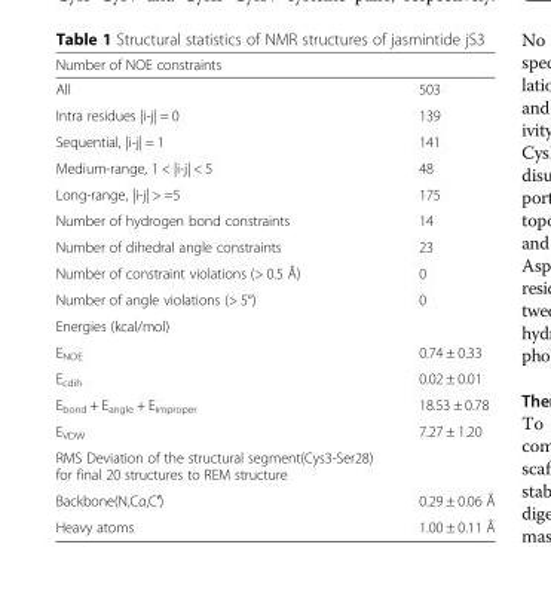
<table><thead><tr><td>Number of NOE constraints</td><td></td></tr></thead><tbody><tr><td>All</td><td>503</td></tr><tr><td>Intra residues |i-j| = 0</td><td>139</td></tr><tr><td>Sequential, |i-j| = 1</td><td>141</td></tr><tr><td>Medium-range, 1 &lt; |i-j| &lt; 5</td><td>48</td></tr><tr><td>Long-range, |i-j| &gt; =5</td><td>175</td></tr><tr><td>Number of hydrogen bond constraints</td><td>14</td></tr><tr><td>Number of dihedral angle constraints</td><td>23</td></tr><tr><td>Number of constraint violations (&gt; 0.5 Å)</td><td>0</td></tr><tr><td>Number of angle violations (&gt; 5°)</td><td>0</td></tr><tr><td colspan="2">Energies (kcal/mol)</td></tr><tr><td>E<sub>NOE</sub></td><td>0.74 ± 0.33</td></tr><tr><td>E<sub>cdih</sub></td><td>0.02 ± 0.01</td></tr><tr><td>E<sub>bond</sub> + E<sub>angle</sub> + E<sub>improper</sub></td><td>18.53 ± 0.78</td></tr><tr><td>E<sub>VDW</sub></td><td>7.27 ± 1.20</td></tr><tr><td colspan="2">RMS Deviation of the structural segment(Cys3-Ser28) for final 20 structures to REM structure</td></tr><tr><td>Backbone(N,Cα,C′)</td><td>0.29 ± 0.06 Å</td></tr><tr><td>Heavy atoms</td><td>1.00 ± 0.11 Å</td></tr></tbody></table>